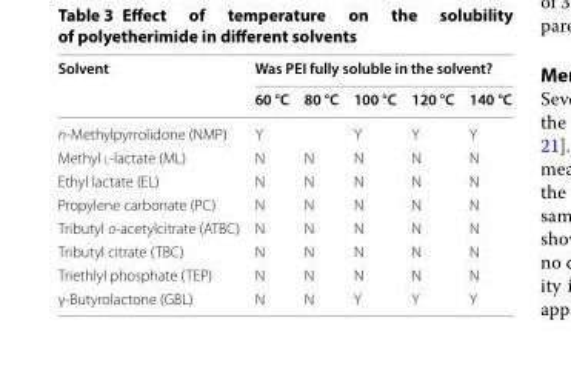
<table><thead><tr><td rowspan="2">Solvent</td><td colspan="5">Was PEI fully soluble in the solvent?</td></tr><tr><td>60 °C</td><td>80 °C</td><td>100 °C</td><td>120 °C</td><td>140 °C</td></tr></thead><tbody><tr><td>n‑Methylpyrrolidone (NMP)</td><td>Y</td><td></td><td>Y</td><td>Y</td><td>Y</td></tr><tr><td>Methyl l‑lactate (ML)</td><td>N</td><td>N</td><td>N</td><td>N</td><td>N</td></tr><tr><td>Ethyl lactate (EL)</td><td>N</td><td>N</td><td>N</td><td>N</td><td>N</td></tr><tr><td>Propylene carbonate (PC)</td><td>N</td><td>N</td><td>N</td><td>N</td><td>N</td></tr><tr><td>Tributyl o‑acetylcitrate (ATBC)</td><td>N</td><td>N</td><td>N</td><td>N</td><td>N</td></tr><tr><td>Tributyl citrate (TBC)</td><td>N</td><td>N</td><td>N</td><td>N</td><td>N</td></tr><tr><td>Triethlyl phosphate (TEP)</td><td>N</td><td>N</td><td>N</td><td>N</td><td>N</td></tr><tr><td>γ‑Butyrolactone (GBL)</td><td>N</td><td>N</td><td>Y</td><td>Y</td><td>Y</td></tr></tbody></table>